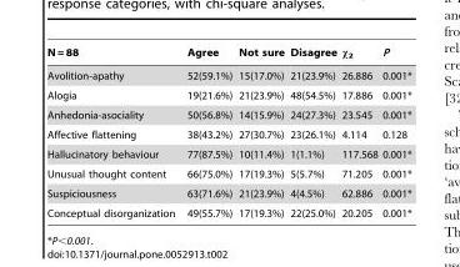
<table><thead><tr><td>N = 88</td><td>Agree</td><td>Not sure</td><td>Disagree</td><td>x2</td><td>P</td></tr></thead><tbody><tr><td>Avolition-apathy</td><td>52(59.1%)</td><td>15(17.0%)</td><td>21(23.9%)</td><td>26.886</td><td>0.001*</td></tr><tr><td>Alogia</td><td>19(21.6%)</td><td>21(23.9%)</td><td>48(54.5%)</td><td>17.886</td><td>0.001*</td></tr><tr><td>Anhedonia-asociality</td><td>50(56.8%)</td><td>14(15.9%)</td><td>24(27.3%)</td><td>23.545</td><td>0.001*</td></tr><tr><td>Affective flattening</td><td>38(43.2%)</td><td>27(30.7%)</td><td>23(26.1%)</td><td>4.114</td><td>0.128</td></tr><tr><td>Hallucinatory behaviour</td><td>77(87.5%)</td><td>10(11.4%)</td><td>1(1.1%)</td><td>117.568</td><td>0.001*</td></tr><tr><td>Unusual thought content</td><td>66(75.0%)</td><td>17(19.3%)</td><td>5(5.7%)</td><td>71.205</td><td>0.001*</td></tr><tr><td>Suspiciousness</td><td>63(71.6%)</td><td>21(23.9%)</td><td>4(4.5%)</td><td>62.886</td><td>0.001*</td></tr><tr><td>Conceptual disorganization</td><td>49(55.7%)</td><td>17(19.3%)</td><td>22(25.0%)</td><td>20.205</td><td>0.001*</td></tr></tbody></table>